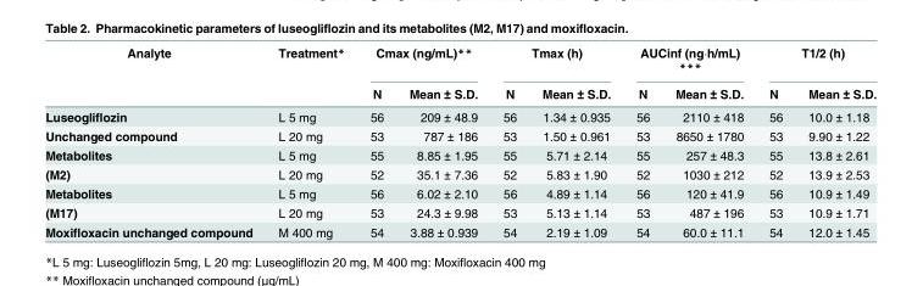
<table><thead><tr><td rowspan="2">Analyte</td><td rowspan="2">Treatment*</td><td colspan="2">Cmax (ng/mL)**</td><td colspan="2">Tmax (h)</td><td colspan="2">AUCinf (ng·h/mL) ***</td><td colspan="2">T1/2 (h)</td></tr><tr><td>N</td><td>Mean ± S.D.</td><td>N</td><td>Mean ± S.D.</td><td>N</td><td>Mean ± S.D.</td><td>N</td><td>Mean ± S.D.</td></tr></thead><tbody><tr><td>Luseogliflozin</td><td>L 5 mg</td><td>56</td><td>209 ± 48.9</td><td>56</td><td>1.34 ± 0.935</td><td>56</td><td>2110 ± 418</td><td>56</td><td>10.0 ± 1.18</td></tr><tr><td>Unchanged compound</td><td>L 20 mg</td><td>53</td><td>787 ± 186</td><td>53</td><td>1.50 ± 0.961</td><td>53</td><td>8650 ± 1780</td><td>53</td><td>9.90 ± 1.22</td></tr><tr><td>Metabolites</td><td>L 5 mg</td><td>55</td><td>8.85 ± 1.95</td><td>55</td><td>5.71 ± 2.14</td><td>55</td><td>257 ± 48.3</td><td>55</td><td>13.8 ± 2.61</td></tr><tr><td>(M2)</td><td>L 20 mg</td><td>52</td><td>35.1 ± 7.36</td><td>52</td><td>5.83 ± 1.90</td><td>52</td><td>1030 ± 212</td><td>52</td><td>13.9 ± 2.53</td></tr><tr><td>Metabolites</td><td>L 5 mg</td><td>56</td><td>6.02 ± 2.10</td><td>56</td><td>4.89 ± 1.14</td><td>56</td><td>120 ± 41.9</td><td>56</td><td>10.9 ± 1.49</td></tr><tr><td>(M17)</td><td>L 20 mg</td><td>53</td><td>24.3 ± 9.98</td><td>53</td><td>5.13 ± 1.14</td><td>53</td><td>487 ± 196</td><td>53</td><td>10.9 ± 1.71</td></tr><tr><td>Moxifloxacin unchanged compound</td><td>M 400 mg</td><td>54</td><td>3.88 ± 0.939</td><td>54</td><td>2.19 ± 1.09</td><td>54</td><td>60.0 ± 11.1</td><td>54</td><td>12.0 ± 1.45</td></tr></tbody></table>